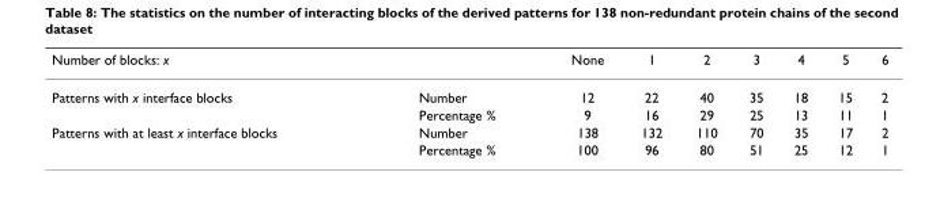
<table><thead><tr><td>Number of blocks: x</td><td></td><td>None</td><td>1</td><td>2</td><td>3</td><td>4</td><td>5</td><td>6</td></tr></thead><tbody><tr><td rowspan="2">Patterns with x interface blocks</td><td>Number</td><td>12</td><td>22</td><td>40</td><td>35</td><td>18</td><td>15</td><td>2</td></tr><tr><td>Percentage %</td><td>9</td><td>16</td><td>29</td><td>25</td><td>13</td><td>11</td><td>1</td></tr><tr><td rowspan="2">Patterns with at least x interface blocks</td><td>Number</td><td>138</td><td>132</td><td>110</td><td>70</td><td>35</td><td>17</td><td>2</td></tr><tr><td>Percentage %</td><td>100</td><td>96</td><td>80</td><td>51</td><td>25</td><td>12</td><td>1</td></tr></tbody></table>